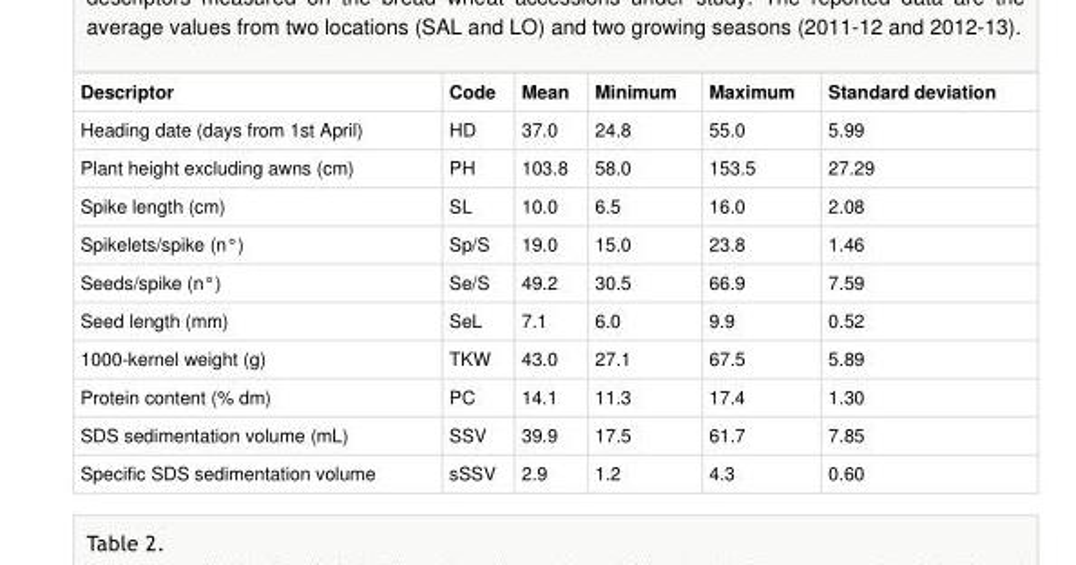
<table><tbody><tr><td>Descriptor</td><td>Code</td><td>Mean</td><td>Minimum</td><td>Maximum</td><td>Standard deviation</td></tr><tr><td>Heading date (days from 1st April)</td><td>HD</td><td>37.0</td><td>24.8</td><td>55.0</td><td>5.99</td></tr><tr><td>Plant height excluding awns (cm)</td><td>PH</td><td>103.8</td><td>58.0</td><td>153.5</td><td>27.29</td></tr><tr><td>Spike length (cm)</td><td>SL</td><td>10.0</td><td>6.5</td><td>16.0</td><td>2.08</td></tr><tr><td>Spikelets/spike (n°)</td><td>Sp/S</td><td>19.0</td><td>15.0</td><td>23.8</td><td>1.46</td></tr><tr><td>Seeds/spike (n°)</td><td>Se/S</td><td>49.2</td><td>30.5</td><td>66.9</td><td>7.59</td></tr><tr><td>Seed length (mm)</td><td>SeL</td><td>7.1</td><td>6.0</td><td>9.9</td><td>0.52</td></tr><tr><td>1000-kernel weight (g)</td><td>TKW</td><td>43.0</td><td>27.1</td><td>67.5</td><td>5.89</td></tr><tr><td>Protein content (% dm)</td><td>PC</td><td>14.1</td><td>11.3</td><td>17.4</td><td>1.30</td></tr><tr><td>SDS sedimentation volume (mL)</td><td>SSV</td><td>39.9</td><td>17.5</td><td>61.7</td><td>7.85</td></tr><tr><td>Specific SDS sedimentation volume</td><td>sSSV</td><td>2.9</td><td>1.2</td><td>4.3</td><td>0.60</td></tr></tbody></table>